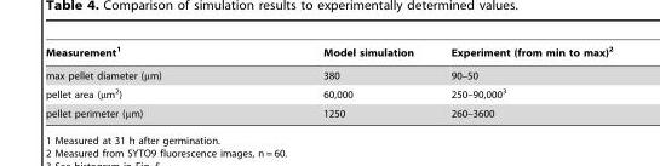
<table><thead><tr><td>Measurement<sup>1</sup></td><td>Model simulation</td><td>Experiment (from min to max)<sup>2</sup></td></tr></thead><tbody><tr><td>max pellet diameter (μm)</td><td>380</td><td>90–50</td></tr><tr><td>pellet area (μm<sup>2</sup>)</td><td>60,000</td><td>250–90,000<sup>3</sup></td></tr><tr><td>pellet perimeter (μm)</td><td>1250</td><td>260–3600</td></tr></tbody></table>